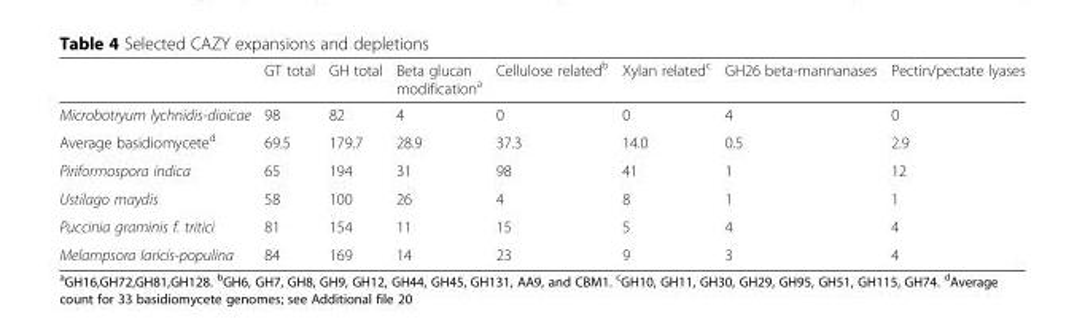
<table><thead><tr><td></td><td>GT total</td><td>GH total</td><td>Beta glucan modification<sup>a</sup></td><td>Cellulose related<sup>b</sup></td><td>Xylan related<sup>c</sup></td><td>GH26 beta-mannanases</td><td>Pectin/pectate lyases</td></tr></thead><tbody><tr><td>Microbotryum lychnidis-dioicae</td><td>98</td><td>82</td><td>4</td><td>0</td><td>0</td><td>4</td><td>0</td></tr><tr><td>Average basidiomycete<sup>d</sup></td><td>69.5</td><td>179.7</td><td>28.9</td><td>37.3</td><td>14.0</td><td>0.5</td><td>2.9</td></tr><tr><td>Piriformospora indica</td><td>65</td><td>194</td><td>31</td><td>98</td><td>41</td><td>1</td><td>12</td></tr><tr><td>Ustilago maydis</td><td>58</td><td>100</td><td>26</td><td>4</td><td>8</td><td>1</td><td>1</td></tr><tr><td>Puccinia graminis f. tritici</td><td>81</td><td>154</td><td>11</td><td>15</td><td>5</td><td>4</td><td>4</td></tr><tr><td>Melampsora laricis-populina</td><td>84</td><td>169</td><td>14</td><td>23</td><td>9</td><td>3</td><td>4</td></tr></tbody></table>